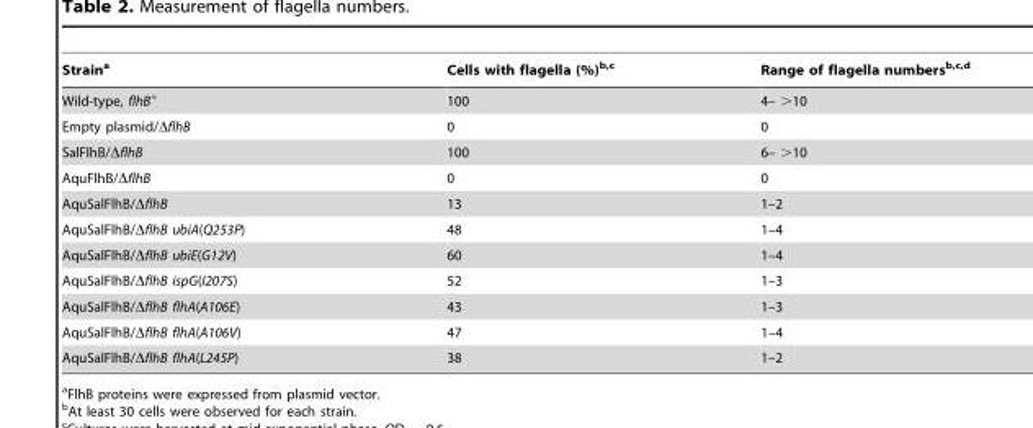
<table><thead><tr><td>Strain<sup>a</sup></td><td>Cells with flagella (%)b,c</td><td>Range of flagella numbersb,c,d</td></tr></thead><tbody><tr><td>Wild-type, flhB<sup>+</sup></td><td>100</td><td>4– &gt;10</td></tr><tr><td>Empty plasmid/ΔflhB</td><td>0</td><td>0</td></tr><tr><td>SalFlhB/ΔflhB</td><td>100</td><td>6– &gt;10</td></tr><tr><td>AquFlhB/ΔflhB</td><td>0</td><td>0</td></tr><tr><td>AquSalFlhB/ΔflhB</td><td>13</td><td>1–2</td></tr><tr><td>AquSalFlhB/ΔflhB ubiA(Q253P)</td><td>48</td><td>1–4</td></tr><tr><td>AquSalFlhB/ΔflhB ubiE(G12V)</td><td>60</td><td>1–4</td></tr><tr><td>AquSalFlhB/ΔflhB ispG(I207S)</td><td>52</td><td>1–3</td></tr><tr><td>AquSalFlhB/ΔflhB flhA(A106E)</td><td>43</td><td>1–3</td></tr><tr><td>AquSalFlhB/ΔflhB flhA(A106V)</td><td>47</td><td>1–4</td></tr><tr><td>AquSalFlhB/ΔflhB flhA(L245P)</td><td>38</td><td>1–2</td></tr></tbody></table>